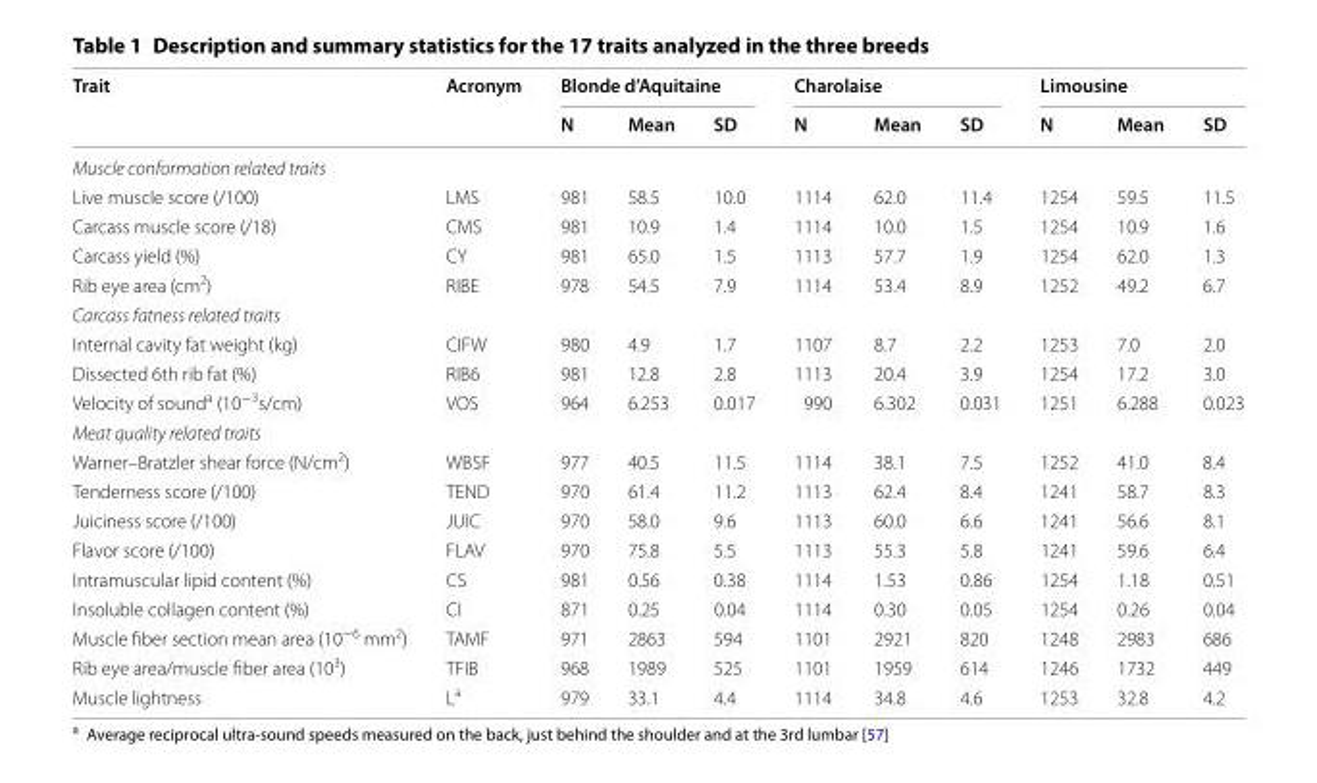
<table><thead><tr><td rowspan="2">Trait</td><td rowspan="2">Acronym</td><td colspan="3">Blonde d’Aquitaine</td><td colspan="3">Charolaise</td><td colspan="3">Limousine</td></tr><tr><td>N</td><td>Mean</td><td>SD</td><td>N</td><td>Mean</td><td>SD</td><td>N</td><td>Mean</td><td>SD</td></tr></thead><tbody><tr><td colspan="11">Muscle conformation related traits</td></tr><tr><td>Live muscle score (/100)</td><td>LMS</td><td>981</td><td>58.5</td><td>10.0</td><td>1114</td><td>62.0</td><td>11.4</td><td>1254</td><td>59.5</td><td>11.5</td></tr><tr><td>Carcass muscle score (/18)</td><td>CMS</td><td>981</td><td>10.9</td><td>1.4</td><td>1114</td><td>10.0</td><td>1.5</td><td>1254</td><td>10.9</td><td>1.6</td></tr><tr><td>Carcass yield (%)</td><td>CY</td><td>981</td><td>65.0</td><td>1.5</td><td>1113</td><td>57.7</td><td>1.9</td><td>1254</td><td>62.0</td><td>1.3</td></tr><tr><td>Rib eye area (cm<sup>2</sup>)</td><td>RIBE</td><td>978</td><td>54.5</td><td>7.9</td><td>1114</td><td>53.4</td><td>8.9</td><td>1252</td><td>49.2</td><td>6.7</td></tr><tr><td colspan="11">Carcass fatness related traits</td></tr><tr><td>Internal cavity fat weight (kg)</td><td>CIFW</td><td>980</td><td>4.9</td><td>1.7</td><td>1107</td><td>8.7</td><td>2.2</td><td>1253</td><td>7.0</td><td>2.0</td></tr><tr><td>Dissected 6th rib fat (%)</td><td>RIB6</td><td>981</td><td>12.8</td><td>2.8</td><td>1113</td><td>20.4</td><td>3.9</td><td>1254</td><td>17.2</td><td>3.0</td></tr><tr><td>Velocity of sound<sup>a</sup> (10<sup>−3</sup>s/cm)</td><td>VOS</td><td>964</td><td>6.253</td><td>0.017</td><td>990</td><td>6.302</td><td>0.031</td><td>1251</td><td>6.288</td><td>0.023</td></tr><tr><td colspan="11">Meat quality related traits</td></tr><tr><td>Warner–Bratzler shear force (N/cm<sup>2</sup>)</td><td>WBSF</td><td>977</td><td>40.5</td><td>11.5</td><td>1114</td><td>38.1</td><td>7.5</td><td>1252</td><td>41.0</td><td>8.4</td></tr><tr><td>Tenderness score (/100)</td><td>TEND</td><td>970</td><td>61.4</td><td>11.2</td><td>1113</td><td>62.4</td><td>8.4</td><td>1241</td><td>58.7</td><td>8.3</td></tr><tr><td>Juiciness score (/100)</td><td>JUIC</td><td>970</td><td>58.0</td><td>9.6</td><td>1113</td><td>60.0</td><td>6.6</td><td>1241</td><td>56.6</td><td>8.1</td></tr><tr><td>Flavor score (/100)</td><td>FLAV</td><td>970</td><td>75.8</td><td>5.5</td><td>1113</td><td>55.3</td><td>5.8</td><td>1241</td><td>59.6</td><td>6.4</td></tr><tr><td>Intramuscular lipid content (%)</td><td>CS</td><td>981</td><td>0.56</td><td>0.38</td><td>1114</td><td>1.53</td><td>0.86</td><td>1254</td><td>1.18</td><td>0.51</td></tr><tr><td>Insoluble collagen content (%)</td><td>CI</td><td>871</td><td>0.25</td><td>0.04</td><td>1114</td><td>0.30</td><td>0.05</td><td>1254</td><td>0.26</td><td>0.04</td></tr><tr><td>Muscle fiber section mean area (10<sup>−6</sup> mm<sup>2</sup>)</td><td>TAMF</td><td>971</td><td>2863</td><td>594</td><td>1101</td><td>2921</td><td>820</td><td>1248</td><td>2983</td><td>686</td></tr><tr><td>Rib eye area/muscle fiber area (10<sup>3</sup>)</td><td>TFIB</td><td>968</td><td>1989</td><td>525</td><td>1101</td><td>1959</td><td>614</td><td>1246</td><td>1732</td><td>449</td></tr><tr><td>Muscle lightness</td><td>L<sup>a</sup></td><td>979</td><td>33.1</td><td>4.4</td><td>1114</td><td>34.8</td><td>4.6</td><td>1253</td><td>32.8</td><td>4.2</td></tr></tbody></table>